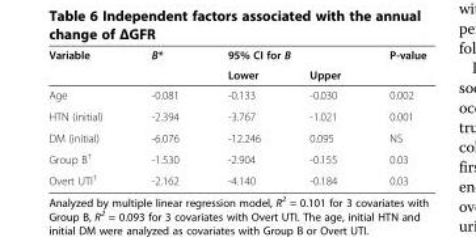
<table><thead><tr><td rowspan="2">Variable</td><td rowspan="2">B*</td><td colspan="2">95% CI for B</td><td rowspan="2">P-value</td></tr><tr><td>Lower</td><td>Upper</td></tr></thead><tbody><tr><td>Age</td><td>-0.081</td><td>-0.133</td><td>-0.030</td><td>0.002</td></tr><tr><td>HTN (initial)</td><td>-2.394</td><td>-3.767</td><td>-1.021</td><td>0.001</td></tr><tr><td>DM (initial)</td><td>-6.076</td><td>-12.246</td><td>0.095</td><td>NS</td></tr><tr><td>Group B<sup>†</sup></td><td>-1.530</td><td>-2.904</td><td>-0.155</td><td>0.03</td></tr><tr><td>Overt UTI<sup>†</sup></td><td>-2.162</td><td>-4.140</td><td>-0.184</td><td>0.03</td></tr></tbody></table>